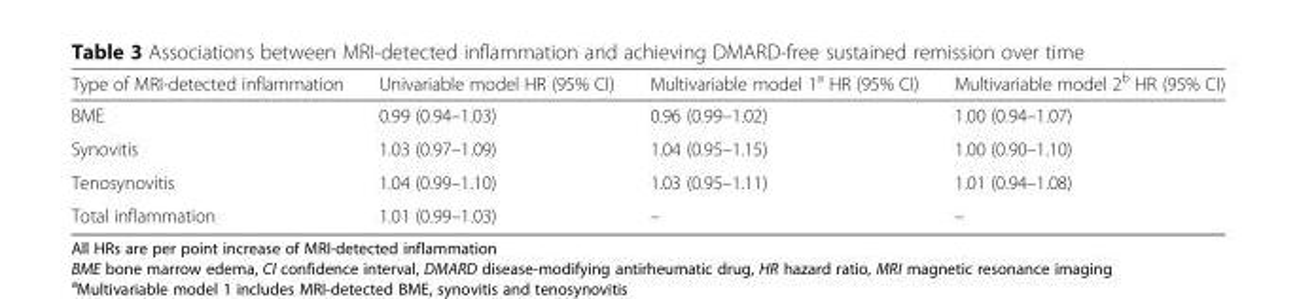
<table><thead><tr><td>Type of MRI-detected inflammation</td><td>Univariable model HR (95% CI)</td><td>Multivariable model 1<sup>a</sup> HR (95% CI)</td><td>Multivariable model 2<sup>b</sup> HR (95% CI)</td></tr></thead><tbody><tr><td>BME</td><td>0.99 (0.94–1.03)</td><td>0.96 (0.99–1.02)</td><td>1.00 (0.94–1.07)</td></tr><tr><td>Synovitis</td><td>1.03 (0.97–1.09)</td><td>1.04 (0.95–1.15)</td><td>1.00 (0.90–1.10)</td></tr><tr><td>Tenosynovitis</td><td>1.04 (0.99–1.10)</td><td>1.03 (0.95–1.11)</td><td>1.01 (0.94–1.08)</td></tr><tr><td>Total inflammation</td><td>1.01 (0.99–1.03)</td><td>–</td><td>–</td></tr></tbody></table>